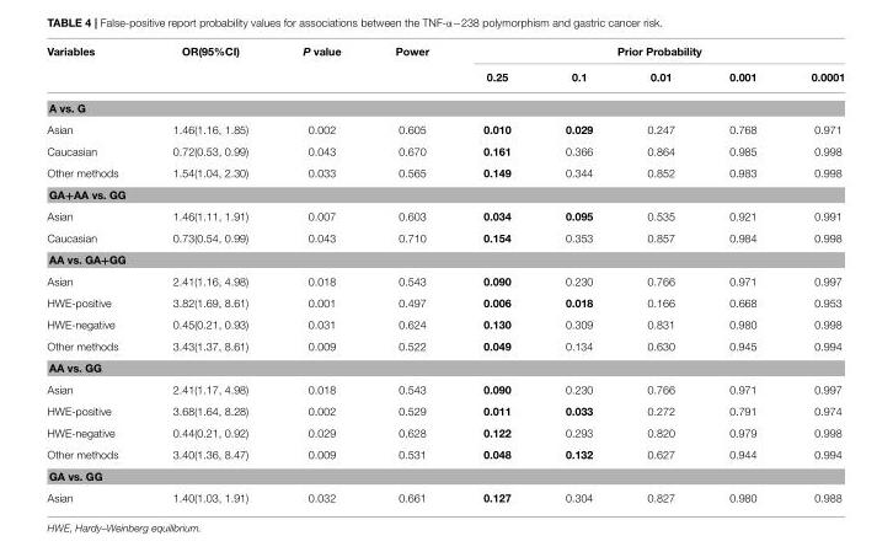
<table><thead><tr><td rowspan="2">Variables</td><td rowspan="2">OR(95%CI)</td><td rowspan="2">P value</td><td rowspan="2">Power</td><td colspan="5">Prior Probability</td></tr><tr><td>0.25</td><td>0.1</td><td>0.01</td><td>0.001</td><td>0.0001</td></tr></thead><tbody><tr><td colspan="9">A vs. G</td></tr><tr><td>Asian</td><td>1.46(1.16, 1.85)</td><td>0.002</td><td>0.605</td><td>0.010</td><td>0.029</td><td>0.247</td><td>0.768</td><td>0.971</td></tr><tr><td>Caucasian</td><td>0.72(0.53, 0.99)</td><td>0.043</td><td>0.670</td><td>0.161</td><td>0.366</td><td>0.864</td><td>0.985</td><td>0.998</td></tr><tr><td>Other methods</td><td>1.54(1.04, 2.30)</td><td>0.033</td><td>0.565</td><td>0.149</td><td>0.344</td><td>0.852</td><td>0.983</td><td>0.998</td></tr><tr><td colspan="9">GA+AA vs. GG</td></tr><tr><td>Asian</td><td>1.46(1.11, 1.91)</td><td>0.007</td><td>0.603</td><td>0.034</td><td>0.095</td><td>0.535</td><td>0.921</td><td>0.991</td></tr><tr><td>Caucasian</td><td>0.73(0.54, 0.99)</td><td>0.043</td><td>0.710</td><td>0.154</td><td>0.353</td><td>0.857</td><td>0.984</td><td>0.998</td></tr><tr><td colspan="9">AA vs. GA+GG</td></tr><tr><td>Asian</td><td>2.41(1.16, 4.98)</td><td>0.018</td><td>0.543</td><td>0.090</td><td>0.230</td><td>0.766</td><td>0.971</td><td>0.997</td></tr><tr><td>HWE-positive</td><td>3.82(1.69, 8.61)</td><td>0.001</td><td>0.497</td><td>0.006</td><td>0.018</td><td>0.166</td><td>0.668</td><td>0.953</td></tr><tr><td>HWE-negative</td><td>0.45(0.21, 0.93)</td><td>0.031</td><td>0.624</td><td>0.130</td><td>0.309</td><td>0.831</td><td>0.980</td><td>0.998</td></tr><tr><td>Other methods</td><td>3.43(1.37, 8.61)</td><td>0.009</td><td>0.522</td><td>0.049</td><td>0.134</td><td>0.630</td><td>0.945</td><td>0.994</td></tr><tr><td colspan="9">AA vs. GG</td></tr><tr><td>Asian</td><td>2.41(1.17, 4.98)</td><td>0.018</td><td>0.543</td><td>0.090</td><td>0.230</td><td>0.766</td><td>0.971</td><td>0.997</td></tr><tr><td>HWE-positive</td><td>3.68(1.64, 8.28)</td><td>0.002</td><td>0.529</td><td>0.011</td><td>0.033</td><td>0.272</td><td>0.791</td><td>0.974</td></tr><tr><td>HWE-negative</td><td>0.44(0.21, 0.92)</td><td>0.029</td><td>0.628</td><td>0.122</td><td>0.293</td><td>0.820</td><td>0.979</td><td>0.998</td></tr><tr><td>Other methods</td><td>3.40(1.36, 8.47)</td><td>0.009</td><td>0.531</td><td>0.048</td><td>0.132</td><td>0.627</td><td>0.944</td><td>0.994</td></tr><tr><td colspan="9">GA vs. GG</td></tr><tr><td>Asian</td><td>1.40(1.03, 1.91)</td><td>0.032</td><td>0.661</td><td>0.127</td><td>0.304</td><td>0.827</td><td>0.980</td><td>0.988</td></tr></tbody></table>